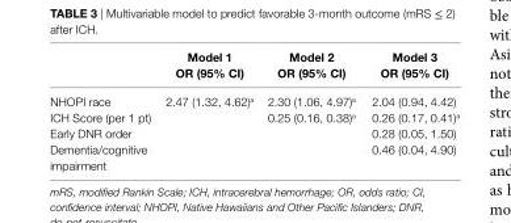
<table><thead><tr><td></td><td>Model 1 Or (95% ci)</td><td>Model 2 Or (95% ci)</td><td>Model 3 Or (95% ci)</td></tr></thead><tbody><tr><td>NHOPI race</td><td>2.47 (1.32, 4.62)<sup>a</sup></td><td>2.30 (1.06, 4.97)<sup>a</sup></td><td>2.04 (0.94, 4.42)</td></tr><tr><td>ICH Score (per 1 pt)</td><td></td><td>0.25 (0.16, 0.38)<sup>a</sup></td><td>0.26 (0.17, 0.41)<sup>a</sup></td></tr><tr><td>Early DNR order</td><td></td><td></td><td>0.28 (0.05, 1.50)</td></tr><tr><td>Dementia/cognitive impairment</td><td></td><td></td><td>0.46 (0.04, 4.90)</td></tr></tbody></table>